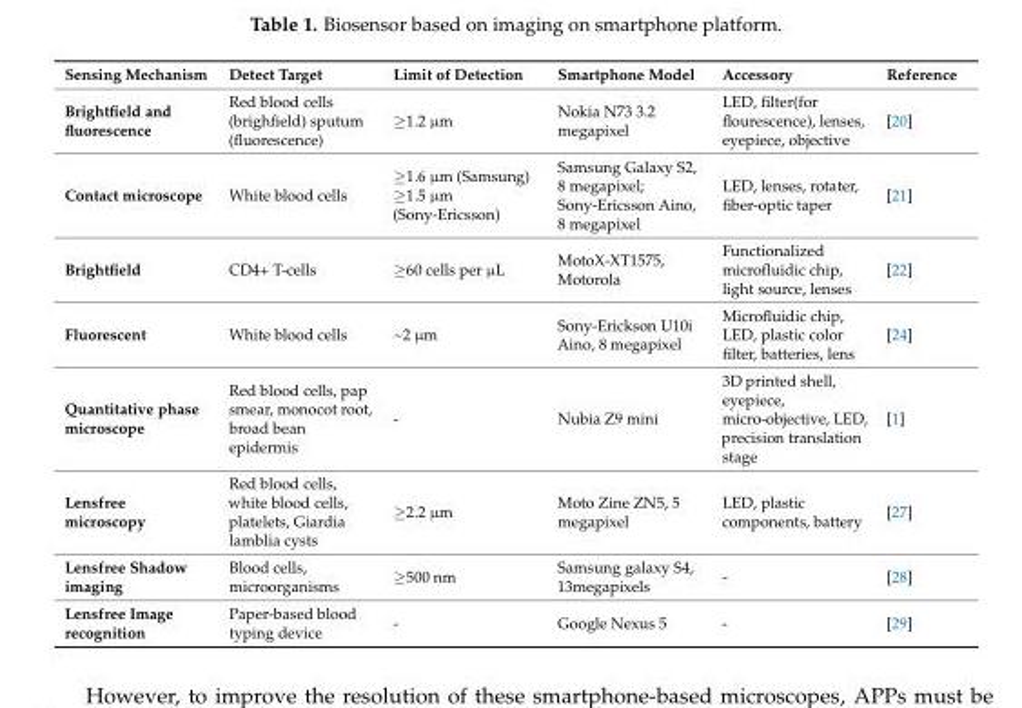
<table><thead><tr><td>Sensing Mechanism</td><td>Detect Target</td><td>Limit of Detection</td><td>Smartphone Model</td><td>Accessory</td><td>Reference</td></tr></thead><tbody><tr><td>Brightfield and fluorescence</td><td>Red blood cells (brighfield) sputum (fluorescence)</td><td>≥1.2 µm</td><td>Nokia N73 3.2 megapixel</td><td>LED, filter(for flourescence), lenses, eyepiece, objective</td><td>[20]</td></tr><tr><td>Contact microscope</td><td>White blood cells</td><td>≥1.6 µm (Samsung) ≥1.5 µm (Sony-Ericsson)</td><td>Samsung Galaxy S2, 8 megapixel; Sony-Ericsson Aino, 8 megapixel</td><td>LED, lenses, rotater, fiber-optic taper</td><td>[21]</td></tr><tr><td>Brightfield</td><td>CD4+ T-cells</td><td>≥60 cells per µL</td><td>MotoX-XT1575, Motorola</td><td>Functionalized microfluidic chip, light source, lenses</td><td>[22]</td></tr><tr><td>Fluorescent</td><td>White blood cells</td><td>~2 µm</td><td>Sony-Erickson U10i Aino, 8 megapixel</td><td>Microfluidic chip, LED, plastic color filter, batteries, lens</td><td>[24]</td></tr><tr><td>Quantitative phase microscope</td><td>Red blood cells, pap smear, monocot root, broad bean epidermis</td><td>-</td><td>Nubia Z9 mini</td><td>3D printed shell, eyepiece, micro-objective, LED, precision translation stage</td><td>[1]</td></tr><tr><td>Lensfree microscopy</td><td>Red blood cells, white blood cells, platelets, Giardia lamblia cysts</td><td>≥2.2 µm</td><td>Moto Zine ZN5, 5 megapixel</td><td>LED, plastic components, battery</td><td>[27]</td></tr><tr><td>Lensfree Shadow imaging</td><td>Blood cells, microorganisms</td><td>≥500 nm</td><td>Samsung galaxy S4, 13megapixels</td><td>-</td><td>[28]</td></tr><tr><td>Lensfree Image recognition</td><td>Paper-based blood typing device</td><td>-</td><td>Google Nexus 5</td><td>-</td><td>[29]</td></tr></tbody></table>